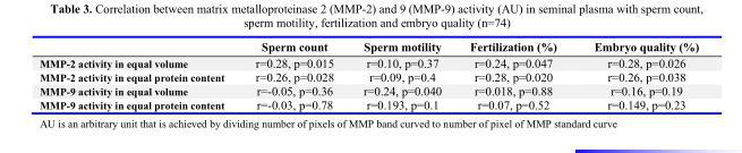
<table><thead><tr><td></td><td>Sperm count</td><td>Sperm motility</td><td>Fertilization (%)</td><td>Embryo quality (%)</td></tr></thead><tbody><tr><td>MMP-2 activity in equal volume</td><td>r=0.28, p=0.015</td><td>r=0.10, p=0.37</td><td>r=0.24, p=0.047</td><td>r=0.28, p=0.026</td></tr><tr><td>MMP-2 activity in equal protein content</td><td>r=0.26, p=0.028</td><td>r=0.09, p=0.4</td><td>r=0.28, p=0.020</td><td>r=0.26, p=0.038</td></tr><tr><td>MMP-9 activity in equal volume</td><td>r=-0.05, p=0.36</td><td>r=0.24, p=0.040</td><td>r=0.018, p=0.88</td><td>r=0.16, p=0.19</td></tr><tr><td>MMP-9 activity in equal protein content</td><td>r=-0.03, p=0.78</td><td>r=0.193, p=0.1</td><td>r=0.07, p=0.52</td><td>r=0.149, p=0.23</td></tr></tbody></table>